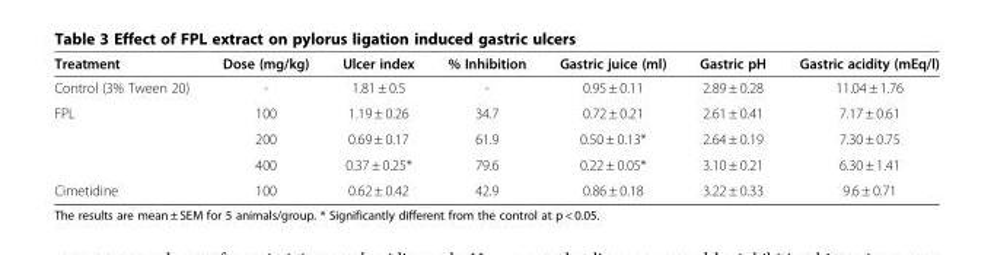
<table><thead><tr><td>Treatment</td><td>Dose (mg/kg)</td><td>Ulcer index</td><td>% Inhibition</td><td>Gastric juice (ml)</td><td>Gastric pH</td><td>Gastric acidity (mEq/l)</td></tr></thead><tbody><tr><td>Control (3% Tween 20)</td><td>-</td><td>1.81 ± 0.5</td><td>-</td><td>0.95 ± 0.11</td><td>2.89 ± 0.28</td><td>11.04 ± 1.76</td></tr><tr><td rowspan="3">FPL</td><td>100</td><td>1.19 ± 0.26</td><td>34.7</td><td>0.72 ± 0.21</td><td>2.61 ± 0.41</td><td>7.17 ± 0.61</td></tr><tr><td>200</td><td>0.69 ± 0.17</td><td>61.9</td><td>0.50 ± 0.13*</td><td>2.64 ± 0.19</td><td>7.30 ± 0.75</td></tr><tr><td>400</td><td>0.37 ± 0.25*</td><td>79.6</td><td>0.22 ± 0.05*</td><td>3.10 ± 0.21</td><td>6.30 ± 1.41</td></tr><tr><td>Cimetidine</td><td>100</td><td>0.62 ± 0.42</td><td>42.9</td><td>0.86 ± 0.18</td><td>3.22 ± 0.33</td><td>9.6 ± 0.71</td></tr></tbody></table>